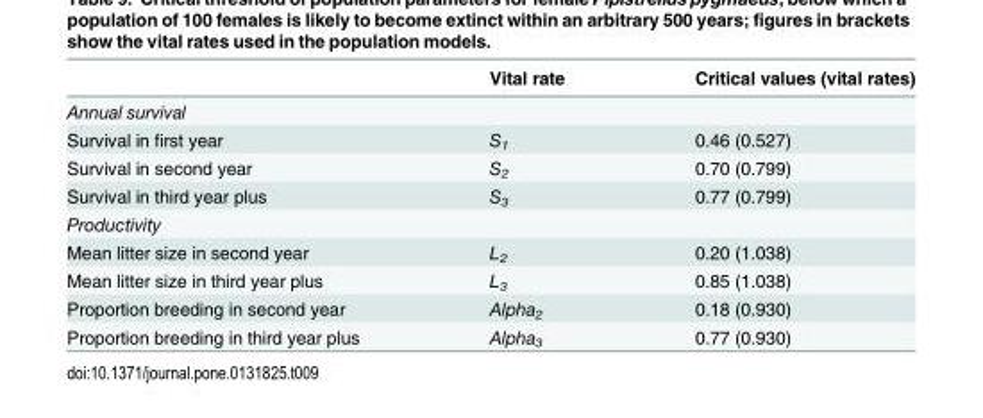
<table><thead><tr><td></td><td>Vital rate</td><td>Critical values (vital rates)</td></tr></thead><tbody><tr><td colspan="3">Annual survival</td></tr><tr><td>Survival in first year</td><td>S<sub>1</sub></td><td>0.46 (0.527)</td></tr><tr><td>Survival in second year</td><td>S<sub>2</sub></td><td>0.70 (0.799)</td></tr><tr><td>Survival in third year plus</td><td>S<sub>3</sub></td><td>0.77 (0.799)</td></tr><tr><td colspan="3">Productivity</td></tr><tr><td>Mean litter size in second year</td><td>L<sub>2</sub></td><td>0.20 (1.038)</td></tr><tr><td>Mean litter size in third year plus</td><td>L<sub>3</sub></td><td>0.85 (1.038)</td></tr><tr><td>Proportion breeding in second year</td><td>Alpha<sub>2</sub></td><td>0.18 (0.930)</td></tr><tr><td>Proportion breeding in third year plus</td><td>Alpha<sub>3</sub></td><td>0.77 (0.930)</td></tr></tbody></table>